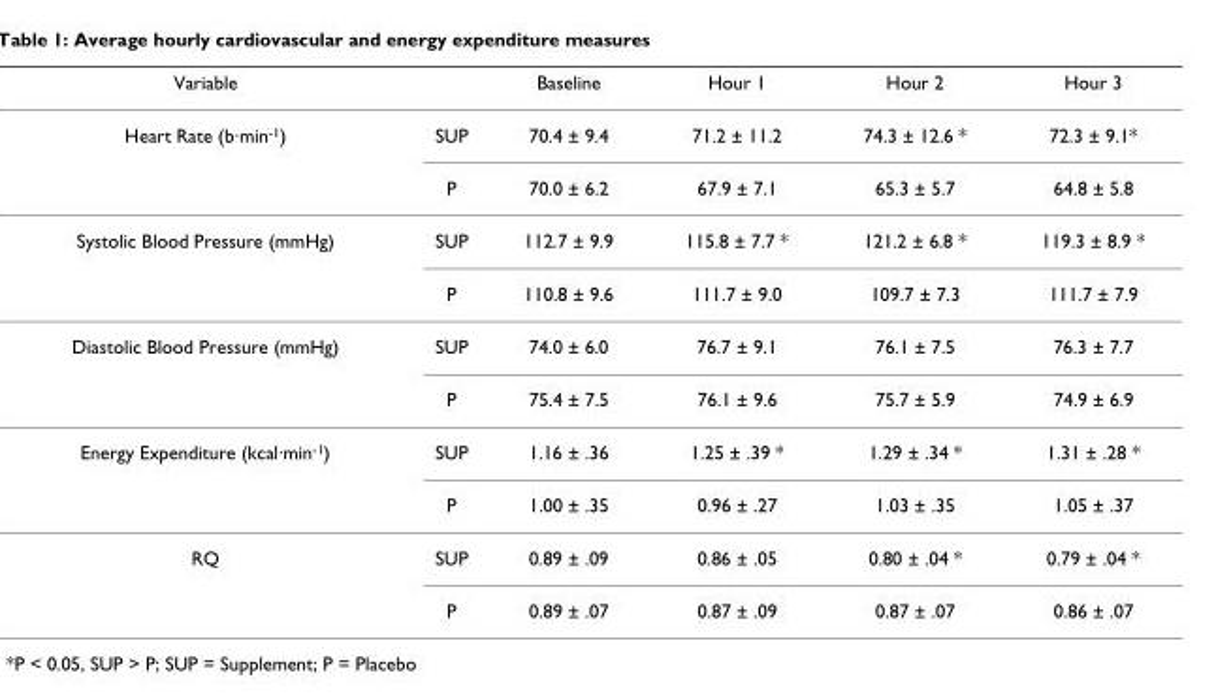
<table><thead><tr><td>Variable</td><td></td><td>Baseline</td><td>Hour 1</td><td>Hour 2</td><td>Hour 3</td></tr></thead><tbody><tr><td rowspan="2">Heart Rate (b·min<sup>-1</sup>)</td><td>SUP</td><td>70.4 ± 9.4</td><td>71.2 ± 11.2</td><td>74.3 ± 12.6 *</td><td>72.3 ± 9.1*</td></tr><tr><td>P</td><td>70.0 ± 6.2</td><td>67.9 ± 7.1</td><td>65.3 ± 5.7</td><td>64.8 ± 5.8</td></tr><tr><td rowspan="2">Systolic Blood Pressure (mmHg)</td><td>SUP</td><td>112.7 ± 9.9</td><td>115.8 ± 7.7 *</td><td>121.2 ± 6.8 *</td><td>119.3 ± 8.9 *</td></tr><tr><td>P</td><td>110.8 ± 9.6</td><td>111.7 ± 9.0</td><td>109.7 ± 7.3</td><td>111.7 ± 7.9</td></tr><tr><td rowspan="2">Diastolic Blood Pressure (mmHg)</td><td>SUP</td><td>74.0 ± 6.0</td><td>76.7 ± 9.1</td><td>76.1 ± 7.5</td><td>76.3 ± 7.7</td></tr><tr><td>P</td><td>75.4 ± 7.5</td><td>76.1 ± 9.6</td><td>75.7 ± 5.9</td><td>74.9 ± 6.9</td></tr><tr><td rowspan="2">Energy Expenditure (kcal·min<sup>-1</sup>)</td><td>SUP</td><td>1.16 ± .36</td><td>1.25 ± .39 *</td><td>1.29 ± .34 *</td><td>1.31 ± .28 *</td></tr><tr><td>P</td><td>1.00 ± .35</td><td>0.96 ± .27</td><td>1.03 ± .35</td><td>1.05 ± .37</td></tr><tr><td rowspan="2">RQ</td><td>SUP</td><td>0.89 ± .09</td><td>0.86 ± .05</td><td>0.80 ± .04 *</td><td>0.79 ± .04 *</td></tr><tr><td>P</td><td>0.89 ± .07</td><td>0.87 ± .09</td><td>0.87 ± .07</td><td>0.86 ± .07</td></tr></tbody></table>